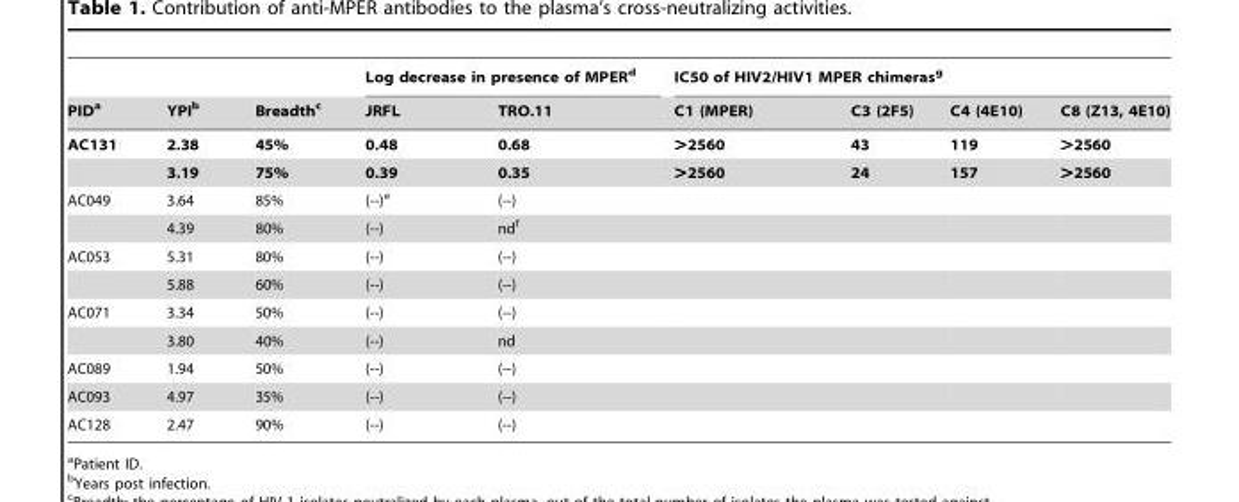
<table><thead><tr><td rowspan="2">PID<sup>a</sup></td><td rowspan="2">YPI<sup>b</sup></td><td rowspan="2">Breadth<sup>c</sup></td><td colspan="2">Log decrease in presence of MPER<sup>d</sup></td><td colspan="4">IC50 of HIV2/HIV1 MPER chimeras<sup>g</sup></td></tr><tr><td>JRFL</td><td>TRO.11</td><td>C1 (MPER)</td><td>C3 (2F5)</td><td>C4 (4E10)</td><td>C8 (Z13, 4E10)</td></tr></thead><tbody><tr><td rowspan="2">AC131</td><td>2.38</td><td>45%</td><td>0.48</td><td>0.68</td><td>&gt;2560</td><td>43</td><td>119</td><td>&gt;2560</td></tr><tr><td>3.19</td><td>75%</td><td>0.39</td><td>0.35</td><td>&gt;2560</td><td>24</td><td>157</td><td>&gt;2560</td></tr><tr><td rowspan="2">AC049</td><td>3.64</td><td>85%</td><td>(--)<sup>e</sup></td><td>(--)</td><td></td><td></td><td></td><td></td></tr><tr><td>4.39</td><td>80%</td><td>(--)</td><td>nd<sup>f</sup></td><td></td><td></td><td></td><td></td></tr><tr><td rowspan="2">AC053</td><td>5.31</td><td>80%</td><td>(--)</td><td>(--)</td><td></td><td></td><td></td><td></td></tr><tr><td>5.88</td><td>60%</td><td>(--)</td><td>(--)</td><td></td><td></td><td></td><td></td></tr><tr><td rowspan="2">AC071</td><td>3.34</td><td>50%</td><td>(--)</td><td>(--)</td><td></td><td></td><td></td><td></td></tr><tr><td>3.80</td><td>40%</td><td>(--)</td><td>nd</td><td></td><td></td><td></td><td></td></tr><tr><td>AC089</td><td>1.94</td><td>50%</td><td>(--)</td><td>(--)</td><td></td><td></td><td></td><td></td></tr><tr><td>AC093</td><td>4.97</td><td>35%</td><td>(--)</td><td>(--)</td><td></td><td></td><td></td><td></td></tr><tr><td>AC128</td><td>2.47</td><td>90%</td><td>(--)</td><td>(--)</td><td></td><td></td><td></td><td></td></tr></tbody></table>